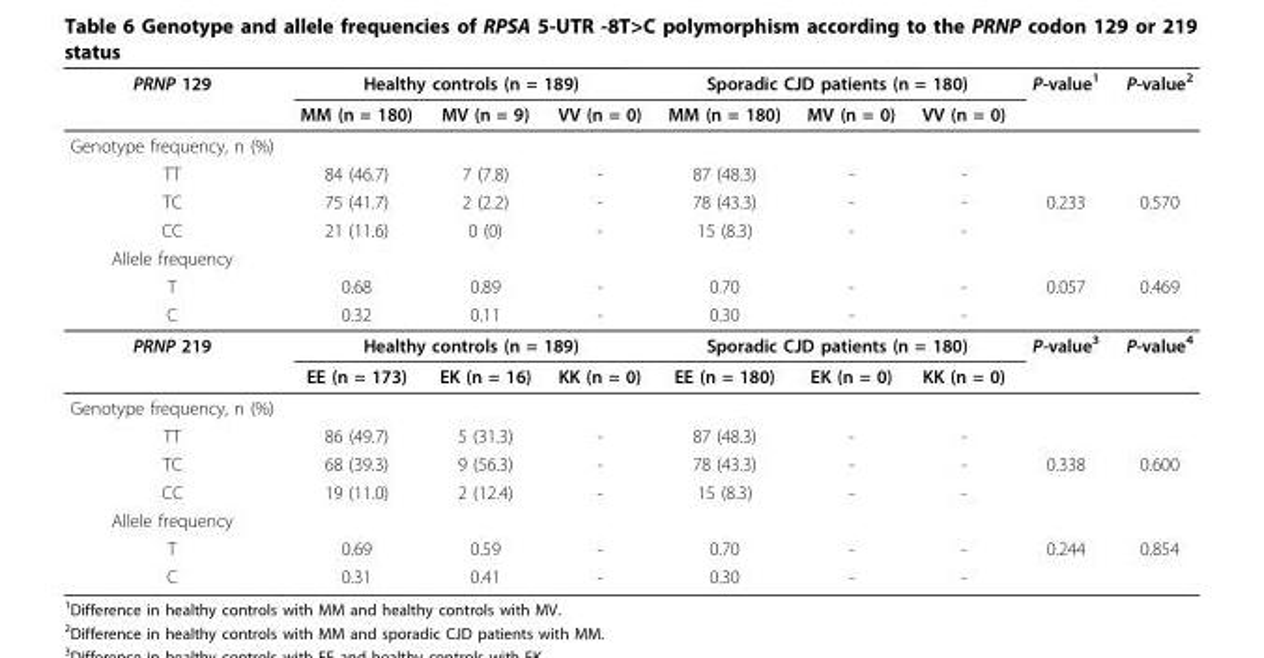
<table><thead><tr><td rowspan="2">PRNP 129</td><td colspan="3">Healthy controls (n = 189)</td><td colspan="3">Sporadic CJD patients (n = 180)</td><td rowspan="2">P-value<sup>1</sup></td><td rowspan="2">P-value<sup>2</sup></td></tr><tr><td>MM (n = 180)</td><td>MV (n = 9)</td><td>VV (n = 0)</td><td>MM (n = 180)</td><td>MV (n = 0)</td><td>VV (n = 0)</td></tr></thead><tbody><tr><td colspan="9">Genotype frequency, n (%)</td></tr><tr><td>TT</td><td>84 (46.7)</td><td>7 (7.8)</td><td>-</td><td>87 (48.3)</td><td>-</td><td>-</td><td></td><td></td></tr><tr><td>TC</td><td>75 (41.7)</td><td>2 (2.2)</td><td>-</td><td>78 (43.3)</td><td>-</td><td>-</td><td>0.233</td><td>0.570</td></tr><tr><td>CC</td><td>21 (11.6)</td><td>0 (0)</td><td>-</td><td>15 (8.3)</td><td>-</td><td>-</td><td></td><td></td></tr><tr><td colspan="9">Allele frequency</td></tr><tr><td>T</td><td>0.68</td><td>0.89</td><td>-</td><td>0.70</td><td>-</td><td>-</td><td>0.057</td><td>0.469</td></tr><tr><td>C</td><td>0.32</td><td>0.11</td><td>-</td><td>0.30</td><td>-</td><td>-</td><td></td><td></td></tr><tr><td rowspan="2">PRNP 219</td><td colspan="3">Healthy controls (n = 189)</td><td colspan="3">Sporadic CJD patients (n = 180)</td><td>P-value<sup>3</sup></td><td>P-value<sup>4</sup></td></tr><tr><td>EE (n = 173)</td><td>EK (n = 16)</td><td>KK (n = 0)</td><td>EE (n = 180)</td><td>EK (n = 0)</td><td>KK (n = 0)</td><td></td><td></td></tr><tr><td colspan="9">Genotype frequency, n (%)</td></tr><tr><td>TT</td><td>86 (49.7)</td><td>5 (31.3)</td><td>-</td><td>87 (48.3)</td><td>-</td><td>-</td><td></td><td></td></tr><tr><td>TC</td><td>68 (39.3)</td><td>9 (56.3)</td><td>-</td><td>78 (43.3)</td><td>-</td><td>-</td><td>0.338</td><td>0.600</td></tr><tr><td>CC</td><td>19 (11.0)</td><td>2 (12.4)</td><td>-</td><td>15 (8.3)</td><td>-</td><td>-</td><td></td><td></td></tr><tr><td colspan="9">Allele frequency</td></tr><tr><td>T</td><td>0.69</td><td>0.59</td><td>-</td><td>0.70</td><td>-</td><td>-</td><td>0.244</td><td>0.854</td></tr><tr><td>C</td><td>0.31</td><td>0.41</td><td>-</td><td>0.30</td><td>-</td><td>-</td><td></td><td></td></tr></tbody></table>